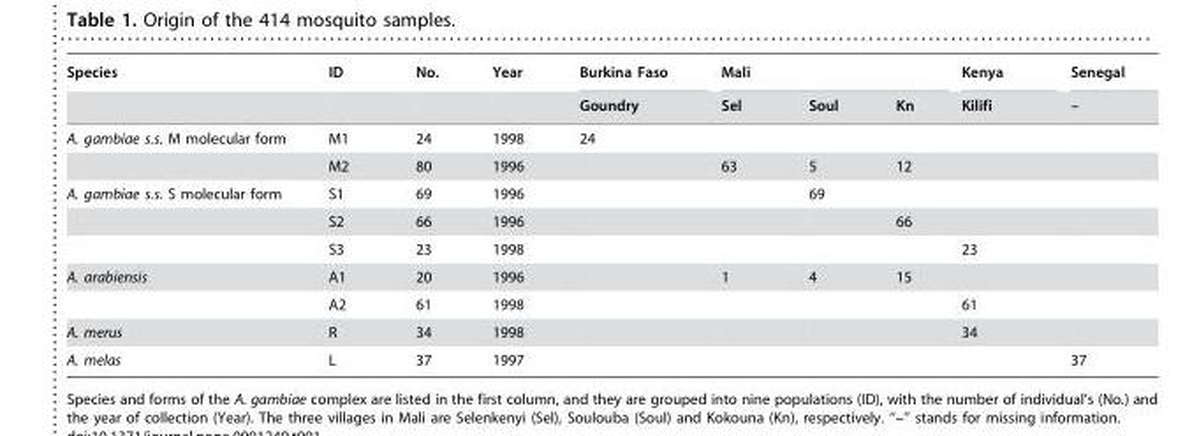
<table><thead><tr><td rowspan="2">Species</td><td rowspan="2">ID</td><td rowspan="2">No.</td><td rowspan="2">Year</td><td rowspan="2">Burkina Faso Goundry</td><td colspan="3">Mali</td><td rowspan="2">Kenya Kilifi</td><td rowspan="2">Senegal –</td></tr><tr><td>Sel</td><td>Soul</td><td>Kn</td></tr></thead><tbody><tr><td rowspan="2">A. gambiae s.s. M molecular form</td><td>M1</td><td>24</td><td>1998</td><td>24</td><td></td><td></td><td></td><td></td><td></td></tr><tr><td>M2</td><td>80</td><td>1996</td><td></td><td>63</td><td>5</td><td>12</td><td></td><td></td></tr><tr><td rowspan="3">A. gambiae s.s. S molecular form</td><td>S1</td><td>69</td><td>1996</td><td></td><td></td><td>69</td><td></td><td></td><td></td></tr><tr><td>S2</td><td>66</td><td>1996</td><td></td><td></td><td></td><td>66</td><td></td><td></td></tr><tr><td>S3</td><td>23</td><td>1998</td><td></td><td></td><td></td><td></td><td>23</td><td></td></tr><tr><td rowspan="2">A. arabiensis</td><td>A1</td><td>20</td><td>1996</td><td></td><td>1</td><td>4</td><td>15</td><td></td><td></td></tr><tr><td>A2</td><td>61</td><td>1998</td><td></td><td></td><td></td><td></td><td>61</td><td></td></tr><tr><td>A. merus</td><td>R</td><td>34</td><td>1998</td><td></td><td></td><td></td><td></td><td>34</td><td></td></tr><tr><td>A. melas</td><td>L</td><td>37</td><td>1997</td><td></td><td></td><td></td><td></td><td></td><td>37</td></tr></tbody></table>